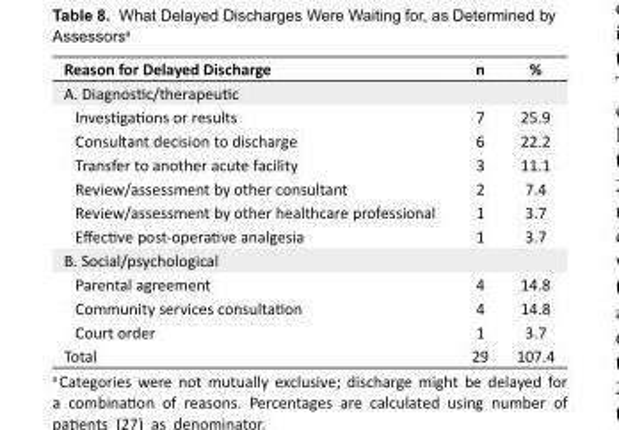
<table><tbody><tr><td>Reason for Delayed Discharge</td><td>n</td><td>%</td></tr><tr><td colspan="3">A. Diagnostic/therapeutic</td></tr><tr><td>Investigations or results</td><td>7</td><td>25.9</td></tr><tr><td>Consultant decision to discharge</td><td>6</td><td>22.2</td></tr><tr><td>Transfer to another acute facility</td><td>3</td><td>11.1</td></tr><tr><td>Review/assessment by other consultant</td><td>2</td><td>7.4</td></tr><tr><td>Review/assessment by other healthcare professional</td><td>1</td><td>3.7</td></tr><tr><td>Effective post-operative analgesia</td><td>1</td><td>3.7</td></tr><tr><td colspan="3">B. Social/psychological</td></tr><tr><td>Parental agreement</td><td>4</td><td>14.8</td></tr><tr><td>Community services consultation</td><td>4</td><td>14.8</td></tr><tr><td>Court order</td><td>1</td><td>3.7</td></tr><tr><td>Total</td><td>29</td><td>107.4</td></tr></tbody></table>